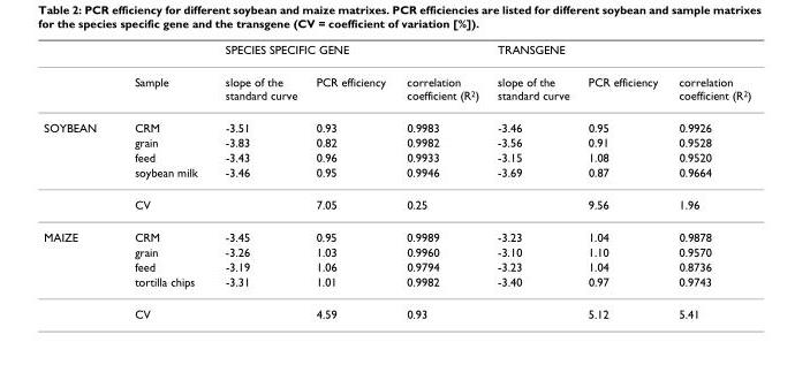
<table><thead><tr><td rowspan="2"></td><td rowspan="2">Sample</td><td colspan="3">SPECIES SPECIFIC GENE</td><td colspan="3">TRANSGENE</td></tr><tr><td>slope of the standard curve</td><td>PCR efficiency</td><td>correlation coefficient (R2)</td><td>slope of the standard curve</td><td>PCR efficiency</td><td>correlation coefficient (R2)</td></tr></thead><tbody><tr><td rowspan="5">SOYBEAN</td><td>CRM</td><td>-3.51</td><td>0.93</td><td>0.9983</td><td>-3.46</td><td>0.95</td><td>0.9926</td></tr><tr><td>grain</td><td>-3.83</td><td>0.82</td><td>0.9982</td><td>-3.56</td><td>0.91</td><td>0.9528</td></tr><tr><td>feed</td><td>-3.43</td><td>0.96</td><td>0.9933</td><td>-3.15</td><td>1.08</td><td>0.9520</td></tr><tr><td>soybean milk</td><td>-3.46</td><td>0.95</td><td>0.9946</td><td>-3.69</td><td>0.87</td><td>0.9664</td></tr><tr><td>CV</td><td></td><td>7.05</td><td>0.25</td><td></td><td>9.56</td><td>1.96</td></tr><tr><td rowspan="5">MAIZE</td><td>CRM</td><td>-3.45</td><td>0.95</td><td>0.9989</td><td>-3.23</td><td>1.04</td><td>0.9878</td></tr><tr><td>grain</td><td>-3.26</td><td>1.03</td><td>0.9960</td><td>-3.10</td><td>1.10</td><td>0.9570</td></tr><tr><td>feed</td><td>-3.19</td><td>1.06</td><td>0.9794</td><td>-3.23</td><td>1.04</td><td>0.8736</td></tr><tr><td>tortilla chips</td><td>-3.31</td><td>1.01</td><td>0.9982</td><td>-3.40</td><td>0.97</td><td>0.9743</td></tr><tr><td>CV</td><td></td><td>4.59</td><td>0.93</td><td></td><td>5.12</td><td>5.41</td></tr></tbody></table>